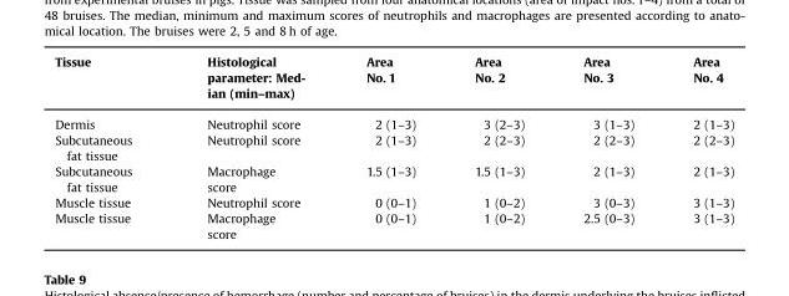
<table><thead><tr><td rowspan="2">Tissue</td><td rowspan="2">Histological parameter: Med- ian (min–max)</td><td rowspan="2">Area No. 1</td><td rowspan="2">Area No. 2</td><td rowspan="2">Area No. 3</td><td rowspan="2">Area No. 4</td></tr><tr></tr></thead><tbody><tr><td>Dermis</td><td>Neutrophil score</td><td>2 (1–3)</td><td>3 (2–3)</td><td>3 (1–3)</td><td>2 (1–3)</td></tr><tr><td>Subcutaneous fat tissue</td><td>Neutrophil score</td><td>2 (1–3)</td><td>2 (2–3)</td><td>2 (2–3)</td><td>2 (2–3)</td></tr><tr><td>Subcutaneous fat tissue</td><td>Macrophage score</td><td>1.5 (1–3)</td><td>1.5 (1–3)</td><td>2 (1–3)</td><td>2 (1–3)</td></tr><tr><td>Muscle tissue</td><td>Neutrophil score</td><td>0 (0–1)</td><td>1 (0–2)</td><td>3 (0–3)</td><td>3 (1–3)</td></tr><tr><td>Muscle tissue</td><td>Macrophage score</td><td>0 (0–1)</td><td>1 (0–2)</td><td>2.5 (0–3)</td><td>3 (1–3)</td></tr></tbody></table>